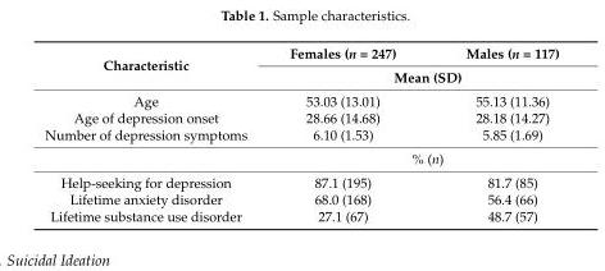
<table><thead><tr><td rowspan="2">Characteristic</td><td>Females (n = 247)</td><td>Males (n = 117)</td></tr><tr><td colspan="2">Mean (SD)</td></tr></thead><tbody><tr><td>Age</td><td>53.03 (13.01)</td><td>55.13 (11.36)</td></tr><tr><td>Age of depression onset</td><td>28.66 (14.68)</td><td>28.18 (14.27)</td></tr><tr><td rowspan="2">Number of depression symptoms</td><td>6.10 (1.53)</td><td>5.85 (1.69)</td></tr><tr><td colspan="2">% (n)</td></tr><tr><td>Help-seeking for depression</td><td>87.1 (195)</td><td>81.7 (85)</td></tr><tr><td>Lifetime anxiety disorder</td><td>68.0 (168)</td><td>56.4 (66)</td></tr><tr><td>Lifetime substance use disorder</td><td>27.1 (67)</td><td>48.7 (57)</td></tr></tbody></table>